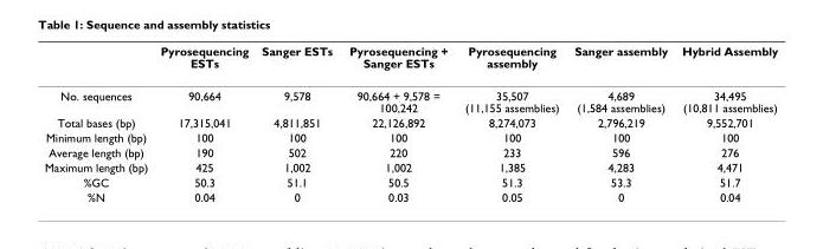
<table><thead><tr><td></td><td>Pyrosequencing ESTs</td><td>Sanger ESTs</td><td>Pyrosequencing + Sanger ESTs</td><td>Pyrosequencing assembly</td><td>Sanger assembly</td><td>Hybrid Assembly</td></tr></thead><tbody><tr><td>No. sequences</td><td>90,664</td><td>9,578</td><td>90,664 + 9,578 = 100,242</td><td>35,507 (11,155 assemblies)</td><td>4,689 (1,584 assemblies)</td><td>34,495 (10,811 assemblies)</td></tr><tr><td>Total bases (bp)</td><td>17,315,041</td><td>4,811,851</td><td>22,126,892</td><td>8,274,073</td><td>2,796,219</td><td>9,552,701</td></tr><tr><td>Minimum length (bp)</td><td>100</td><td>100</td><td>100</td><td>100</td><td>100</td><td>100</td></tr><tr><td>Average length (bp)</td><td>190</td><td>502</td><td>220</td><td>233</td><td>596</td><td>276</td></tr><tr><td>Maximum length (bp)</td><td>425</td><td>1,002</td><td>1,002</td><td>1,385</td><td>4,283</td><td>4,471</td></tr><tr><td>%GC</td><td>50.3</td><td>51.1</td><td>50.5</td><td>51.3</td><td>53.3</td><td>51.7</td></tr><tr><td>%N</td><td>0.04</td><td>0</td><td>0.03</td><td>0.05</td><td>0</td><td>0.04</td></tr></tbody></table>